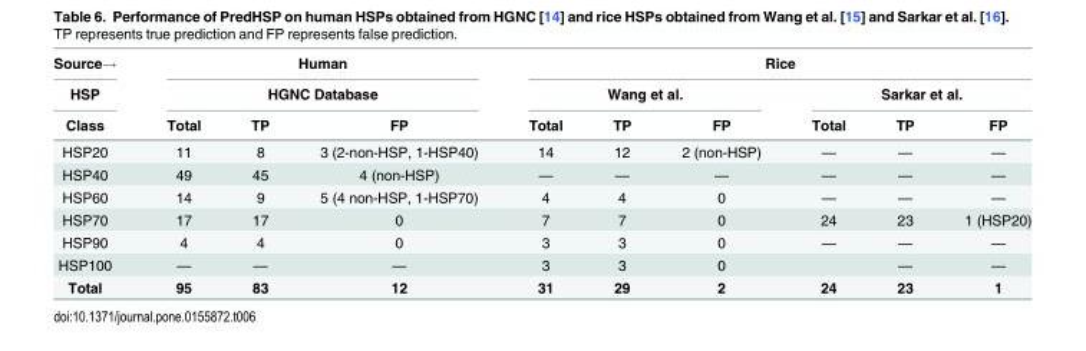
<table><thead><tr><td rowspan="3">Source→ HSP Class</td><td rowspan="2" colspan="3">Human HGNC Database</td><td colspan="6">Rice</td></tr><tr><td colspan="3">Wang et al.</td><td colspan="3">Sarkar et al.</td></tr><tr><td>Total</td><td>TP</td><td>FP</td><td>Total</td><td>TP</td><td>FP</td><td>Total</td><td>TP</td><td>FP</td></tr></thead><tbody><tr><td>HSP20</td><td>11</td><td>8</td><td>3 (2-non-HSP, 1-HSP40)</td><td>14</td><td>12</td><td>2 (non-HSP)</td><td>—</td><td>—</td><td>—</td></tr><tr><td>HSP40</td><td>49</td><td>45</td><td>4 (non-HSP)</td><td>—</td><td>—</td><td>—</td><td>—</td><td>—</td><td>—</td></tr><tr><td>HSP60</td><td>14</td><td>9</td><td>5 (4 non-HSP, 1-HSP70)</td><td>4</td><td>4</td><td>0</td><td>—</td><td>—</td><td>—</td></tr><tr><td>HSP70</td><td>17</td><td>17</td><td>0</td><td>7</td><td>7</td><td>0</td><td>24</td><td>23</td><td>1 (HSP20)</td></tr><tr><td>HSP90</td><td>4</td><td>4</td><td>0</td><td>3</td><td>3</td><td>0</td><td>—</td><td>—</td><td>—</td></tr><tr><td>HSP100</td><td>—</td><td>—</td><td>—</td><td>3</td><td>3</td><td>0</td><td></td><td>—</td><td>—</td></tr><tr><td>Total</td><td>95</td><td>83</td><td>12</td><td>31</td><td>29</td><td>2</td><td>24</td><td>23</td><td>1</td></tr></tbody></table>